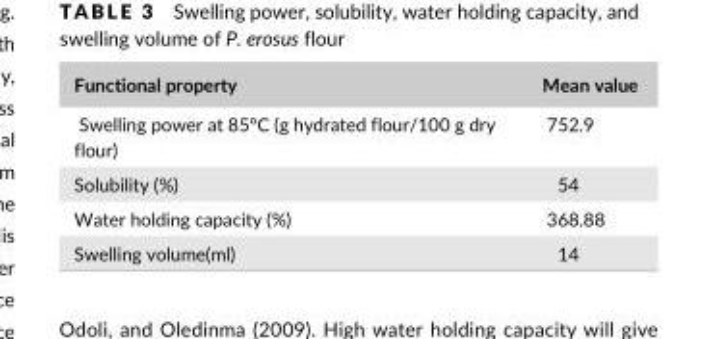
<table><thead><tr><td>Functional property</td><td>Mean value</td></tr></thead><tbody><tr><td>Swelling power at 85°C (g hydrated flour/100 g dry flour)</td><td>752.9</td></tr><tr><td>Solubility (%)</td><td>54</td></tr><tr><td>Water holding capacity (%)</td><td>368.88</td></tr><tr><td>Swelling volume(ml)</td><td>14</td></tr></tbody></table>